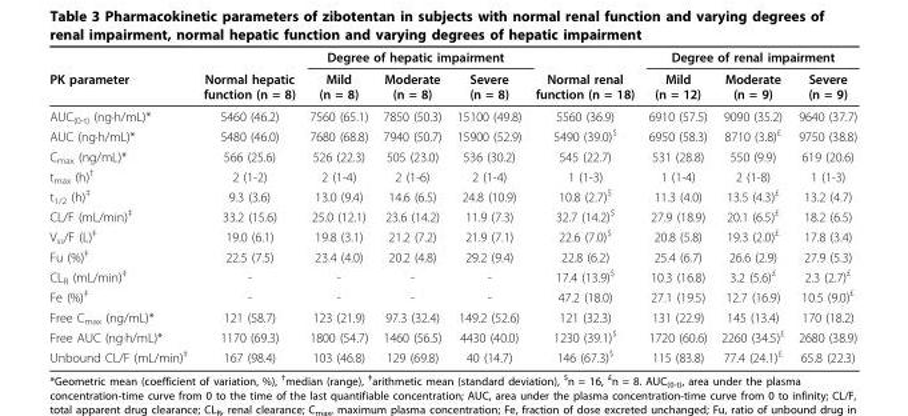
<table><thead><tr><td rowspan="2">PK parameter</td><td rowspan="2">Normal hepatic function (n = 8)</td><td colspan="3">Degree of hepatic impairment</td><td rowspan="2">Normal renal function (n = 18)</td><td colspan="3">Degree of renal impairment</td></tr><tr><td>Mild (n = 8)</td><td>Moderate (n = 8)</td><td>Severe (n = 8)</td><td>Mild (n = 12)</td><td>Moderate (n = 9)</td><td>Severe (n = 9)</td></tr></thead><tbody><tr><td>AUC<sub>(0-t)</sub> (ng·h/mL)*</td><td>5460 (46.2)</td><td>7560 (65.1)</td><td>7850 (50.3)</td><td>15100 (49.8)</td><td>5560 (36.9)</td><td>6910 (57.5)</td><td>9090 (35.2)</td><td>9640 (37.7)</td></tr><tr><td>AUC (ng·h/mL)*</td><td>5480 (46.0)</td><td>7680 (68.8)</td><td>7940 (50.7)</td><td>15900 (52.9)</td><td>5490 (39.0)<sup>$</sup></td><td>6950 (58.3)</td><td>8710 (3.8)<sup>£</sup></td><td>9750 (38.8)</td></tr><tr><td>C<sub>max</sub> (ng/mL)*</td><td>566 (25.6)</td><td>526 (22.3)</td><td>505 (23.0)</td><td>536 (30.2)</td><td>545 (22.7)</td><td>531 (28.8)</td><td>550 (9.9)</td><td>619 (20.6)</td></tr><tr><td>t<sub>max</sub> (h)<sup>†</sup></td><td>2 (1-2)</td><td>2 (1-4)</td><td>2 (1-6)</td><td>2 (1-4)</td><td>1 (1-3)</td><td>1 (1-4)</td><td>2 (1-8)</td><td>1 (1-3)</td></tr><tr><td>t<sub>1/2</sub> (h)<sup>‡</sup></td><td>9.3 (3.6)</td><td>13.0 (9.4)</td><td>14.6 (6.5)</td><td>24.8 (10.9)</td><td>10.8 (2.7)<sup>$</sup></td><td>11.3 (4.0)</td><td>13.5 (4.3)<sup>£</sup></td><td>13.2 (4.7)</td></tr><tr><td>CL/F (mL/min)<sup>‡</sup></td><td>33.2 (15.6)</td><td>25.0 (12.1)</td><td>23.6 (14.2)</td><td>11.9 (7.3)</td><td>32.7 (14.2)<sup>$</sup></td><td>27.9 (18.9)</td><td>20.1 (6.5)<sup>£</sup></td><td>18.2 (6.5)</td></tr><tr><td>V<sub>ss</sub>/F (L)<sup>‡</sup></td><td>19.0 (6.1)</td><td>19.8 (3.1)</td><td>21.2 (7.2)</td><td>21.9 (7.1)</td><td>22.6 (7.0)<sup>$</sup></td><td>20.8 (5.8)</td><td>19.3 (2.0)<sup>£</sup></td><td>17.8 (3.4)</td></tr><tr><td>Fu (%)<sup>‡</sup></td><td>22.5 (7.5)</td><td>23.4 (4.0)</td><td>20.2 (4.8)</td><td>29.2 (9.4)</td><td>22.8 (6.2)</td><td>25.4 (6.7)</td><td>26.6 (2.9)</td><td>27.9 (5.3)</td></tr><tr><td>CL<sub>R</sub> (mL/min)<sup>‡</sup></td><td>-</td><td>-</td><td>-</td><td>-</td><td>17.4 (13.9)<sup>$</sup></td><td>10.3 (16.8)</td><td>3.2 (5.6)<sup>£</sup></td><td>2.3 (2.7)<sup>£</sup></td></tr><tr><td>Fe (%)<sup>‡</sup></td><td>-</td><td>-</td><td>-</td><td>-</td><td>47.2 (18.0)</td><td>27.1 (19.5)</td><td>12.7 (16.9)</td><td>10.5 (9.0)<sup>£</sup></td></tr><tr><td>Free C<sub>max</sub> (ng/mL)*</td><td>121 (58.7)</td><td>123 (21.9)</td><td>97.3 (32.4)</td><td>149.2 (52.6)</td><td>121 (32.3)</td><td>131 (22.9)</td><td>145 (13.4)</td><td>170 (18.2)</td></tr><tr><td>Free AUC (ng·h/mL)*</td><td>1170 (69.3)</td><td>1800 (54.7)</td><td>1460 (56.5)</td><td>4430 (40.0)</td><td>1230 (39.1)<sup>$</sup></td><td>1720 (60.6)</td><td>2260 (34.5)<sup>£</sup></td><td>2680 (38.9)</td></tr><tr><td>Unbound CL/F (mL/min)<sup>‡</sup></td><td>167 (98.4)</td><td>103 (46.8)</td><td>129 (69.8)</td><td>40 (14.7)</td><td>146 (67.3)<sup>$</sup></td><td>115 (83.8)</td><td>77.4 (24.1)<sup>£</sup></td><td>65.8 (22.3)</td></tr></tbody></table>